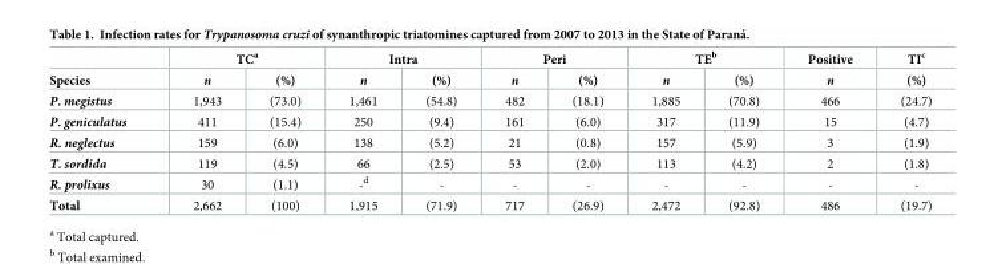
<table><thead><tr><td rowspan="2">Species</td><td colspan="2">TC<sup>a</sup></td><td colspan="2">Intra</td><td colspan="2">Peri</td><td colspan="2">TE<sup>b</sup></td><td rowspan="2">Positive n</td><td rowspan="2">TI<sup>c</sup> (%)</td></tr><tr><td>n</td><td>(%)</td><td>n</td><td>(%)</td><td>n</td><td>(%)</td><td>n</td><td>(%)</td></tr></thead><tbody><tr><td>P. megistus</td><td>1,943</td><td>(73.0)</td><td>1,461</td><td>(54.8)</td><td>482</td><td>(18.1)</td><td>1,885</td><td>(70.8)</td><td>466</td><td>(24.7)</td></tr><tr><td>P. geniculatus</td><td>411</td><td>(15.4)</td><td>250</td><td>(9.4)</td><td>161</td><td>(6.0)</td><td>317</td><td>(11.9)</td><td>15</td><td>(4.7)</td></tr><tr><td>R. neglectus</td><td>159</td><td>(6.0)</td><td>138</td><td>(5.2)</td><td>21</td><td>(0.8)</td><td>157</td><td>(5.9)</td><td>3</td><td>(1.9)</td></tr><tr><td>T. sordida</td><td>119</td><td>(4.5)</td><td>66</td><td>(2.5)</td><td>53</td><td>(2.0)</td><td>113</td><td>(4.2)</td><td>2</td><td>(1.8)</td></tr><tr><td>R. prolixus</td><td>30</td><td>(1.1)</td><td>-<sup>d</sup></td><td>-</td><td>-</td><td>-</td><td>-</td><td>-</td><td>-</td><td>-</td></tr><tr><td>Total</td><td>2,662</td><td>(100)</td><td>1,915</td><td>(71.9)</td><td>717</td><td>(26.9)</td><td>2,472</td><td>(92.8)</td><td>486</td><td>(19.7)</td></tr></tbody></table>